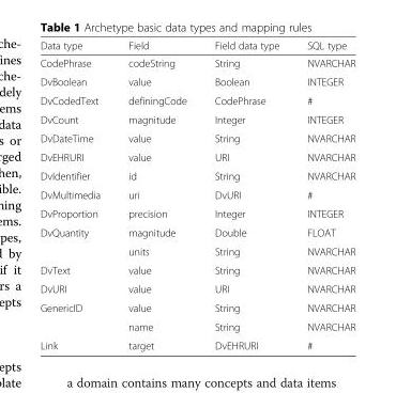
<table><thead><tr><td>Data type</td><td>Field</td><td>Field data type</td><td>SQL type</td></tr></thead><tbody><tr><td>CodePhrase</td><td>codeString</td><td>String</td><td>NVARCHAR</td></tr><tr><td>DvBoolean</td><td>value</td><td>Boolean</td><td>INTEGER</td></tr><tr><td>DvCodedText</td><td>definingCode</td><td>CodePhrase</td><td>#</td></tr><tr><td>DvCount</td><td>magnitude</td><td>Integer</td><td>INTEGER</td></tr><tr><td>DvDateTime</td><td>value</td><td>String</td><td>NVARCHAR</td></tr><tr><td>DvEHRURI</td><td>value</td><td>URI</td><td>NVARCHAR</td></tr><tr><td>DvIdentifier</td><td>id</td><td>String</td><td>NVARCHAR</td></tr><tr><td>DvMultimedia</td><td>uri</td><td>DvURI</td><td>#</td></tr><tr><td>DvProportion</td><td>precision</td><td>Integer</td><td>INTEGER</td></tr><tr><td rowspan="2">DvQuantity</td><td>magnitude</td><td>Double</td><td>FLOAT</td></tr><tr><td>units</td><td>String</td><td>NVARCHAR</td></tr><tr><td>DvText</td><td>value</td><td>String</td><td>NVARCHAR</td></tr><tr><td>DvURI</td><td>value</td><td>URI</td><td>NVARCHAR</td></tr><tr><td rowspan="2">GenericID</td><td>value</td><td>String</td><td>NVARCHAR</td></tr><tr><td>name</td><td>String</td><td>NVARCHAR</td></tr><tr><td>Link</td><td>target</td><td>DvEHRURI</td><td>#</td></tr></tbody></table>